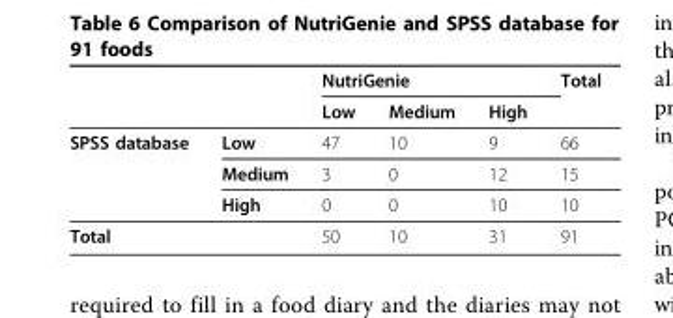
<table><thead><tr><td rowspan="2"></td><td rowspan="2"></td><td colspan="3">NutriGenie</td><td rowspan="2">Total</td></tr><tr><td>Low</td><td>Medium</td><td>High</td></tr></thead><tbody><tr><td rowspan="3">SPSS database</td><td>Low</td><td>47</td><td>10</td><td>9</td><td>66</td></tr><tr><td>Medium</td><td>3</td><td>0</td><td>12</td><td>15</td></tr><tr><td>High</td><td>0</td><td>0</td><td>10</td><td>10</td></tr><tr><td colspan="2">Total</td><td>50</td><td>10</td><td>31</td><td>91</td></tr></tbody></table>